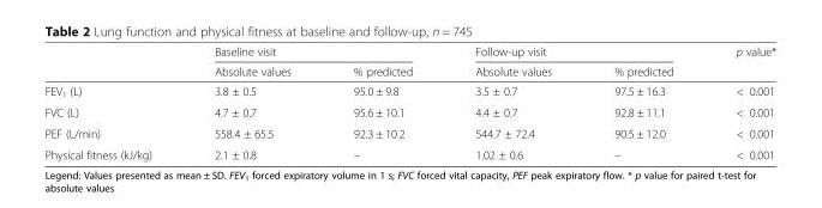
<table><thead><tr><td rowspan="2"></td><td colspan="2">Baseline visit</td><td colspan="2">Follow-up visit</td><td rowspan="2">p value*</td></tr><tr><td>Absolute values</td><td>% predicted</td><td>Absolute values</td><td>% predicted</td></tr></thead><tbody><tr><td>FEV<sub>1</sub> (L)</td><td>3.8 ± 0.5</td><td>95.0 ± 9.8</td><td>3.5 ± 0.7</td><td>97.5 ± 16.3</td><td>&lt; 0.001</td></tr><tr><td>FVC (L)</td><td>4.7 ± 0.7</td><td>95.6 ± 10.1</td><td>4.4 ± 0.7</td><td>92.8 ± 11.1</td><td>&lt; 0.001</td></tr><tr><td>PEF (L/min)</td><td>558.4 ± 65.5</td><td>92.3 ± 10.2</td><td>544.7 ± 72.4</td><td>90.5 ± 12.0</td><td>&lt; 0.001</td></tr><tr><td>Physical fitness (kJ/kg)</td><td>2.1 ± 0.8</td><td>–</td><td>1.02 ± 0.6</td><td>–</td><td>&lt; 0.001</td></tr></tbody></table>